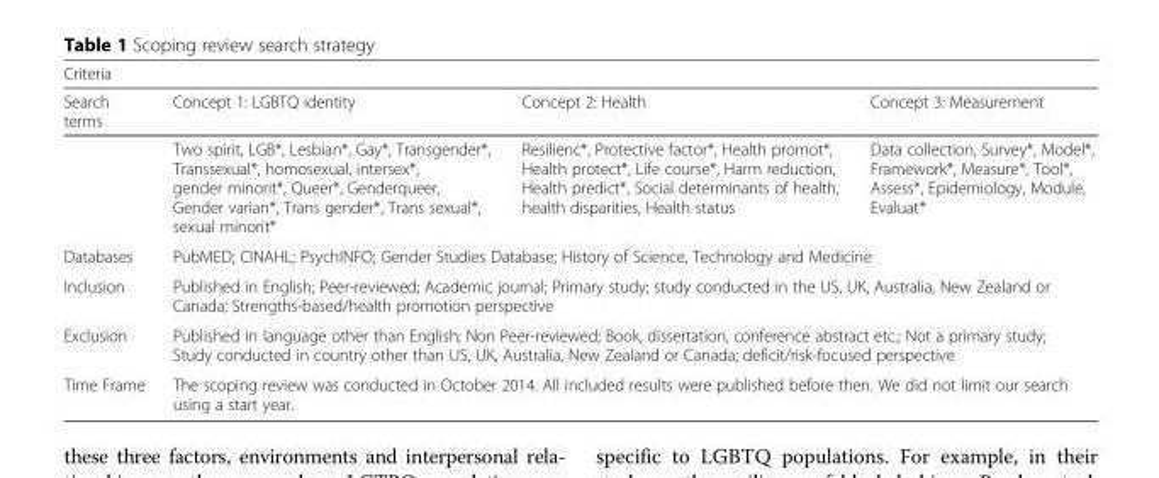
<table><thead><tr><td colspan="4">Criteria</td></tr><tr><td>Search terms</td><td>Concept 1: LGBTQ identity</td><td>Concept 2: Health</td><td>Concept 3: Measurement</td></tr></thead><tbody><tr><td></td><td>Two spirit, LGB*, Lesbian*, Gay*, Transgender*, Transsexual*, homosexual, intersex*, gender minorit*, Queer*, Genderqueer, Gender varian*, Trans gender*, Trans sexual*, sexual minorit*</td><td>Resilienc*, Protective factor*, Health promot*, Health protect*, Life course*, Harm reduction, Health predict*, Social determinants of health, health disparities, Health status</td><td>Data collection, Survey*, Model*, Framework*, Measure*, Tool*, Assess*, Epidemiology, Module, Evaluat*</td></tr><tr><td>Databases</td><td colspan="3">PubMED; CINAHL; PsychINFO; Gender Studies Database; History of Science, Technology and Medicine</td></tr><tr><td>Inclusion</td><td colspan="3">Published in English; Peer-reviewed; Academic journal; Primary study; study conducted in the US, UK, Australia, New Zealand or Canada; Strengths-based/health promotion perspective</td></tr><tr><td>Exclusion</td><td colspan="3">Published in language other than English; Non Peer-reviewed; Book, dissertation, conference abstract etc.; Not a primary study; Study conducted in country other than US, UK, Australia, New Zealand or Canada; deficit/risk-focused perspective</td></tr><tr><td>Time Frame</td><td colspan="3">The scoping review was conducted in October 2014. All included results were published before then. We did not limit our search using a start year.</td></tr></tbody></table>